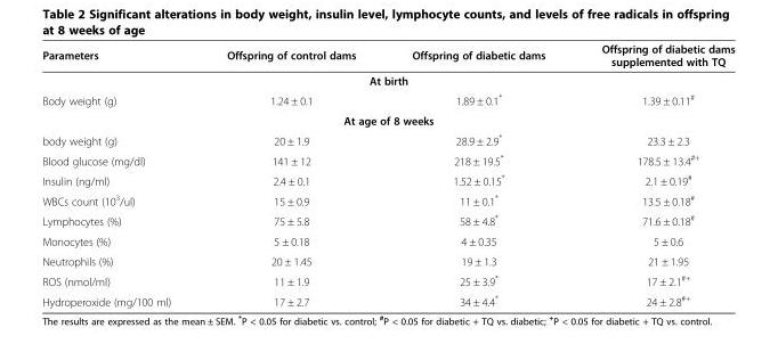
<table><thead><tr><td>Parameters</td><td>Offspring of control dams</td><td>Offspring of diabetic dams</td><td>Offspring of diabetic dams supplemented with TQ</td></tr></thead><tbody><tr><td colspan="4">At birth</td></tr><tr><td>Body weight (g)</td><td>1.24 ± 0.1</td><td>1.89 ± 0.1*</td><td>1.39 ± 0.11<sup>#</sup></td></tr><tr><td colspan="4">At age of 8 weeks</td></tr><tr><td>body weight (g)</td><td>20 ± 1.9</td><td>28.9 ± 2.9*</td><td>23.3 ± 2.3</td></tr><tr><td>Blood glucose (mg/dl)</td><td>141 ± 12</td><td>218 ± 19.5*</td><td>178.5 ± 13.4<sup>#+</sup></td></tr><tr><td>Insulin (ng/ml)</td><td>2.4 ± 0.1</td><td>1.52 ± 0.15*</td><td>2.1 ± 0.19<sup>#</sup></td></tr><tr><td>WBCs count (10<sup>3</sup>/ul)</td><td>15 ± 0.9</td><td>11 ± 0.1*</td><td>13.5 ± 0.18<sup>#</sup></td></tr><tr><td>Lymphocytes (%)</td><td>75 ± 5.8</td><td>58 ± 4.8*</td><td>71.6 ± 0.18<sup>#</sup></td></tr><tr><td>Monocytes (%)</td><td>5 ± 0.18</td><td>4 ± 0.35</td><td>5 ± 0.6</td></tr><tr><td>Neutrophils (%)</td><td>20 ± 1.45</td><td>19 ± 1.3</td><td>21 ± 1.95</td></tr><tr><td>ROS (nmol/ml)</td><td>11 ± 1.9</td><td>25 ± 3.9*</td><td>17 ± 2.1<sup>#+</sup></td></tr><tr><td>Hydroperoxide (mg/100 ml)</td><td>17 ± 2.7</td><td>34 ± 4.4*</td><td>24 ± 2.8<sup>#+</sup></td></tr></tbody></table>